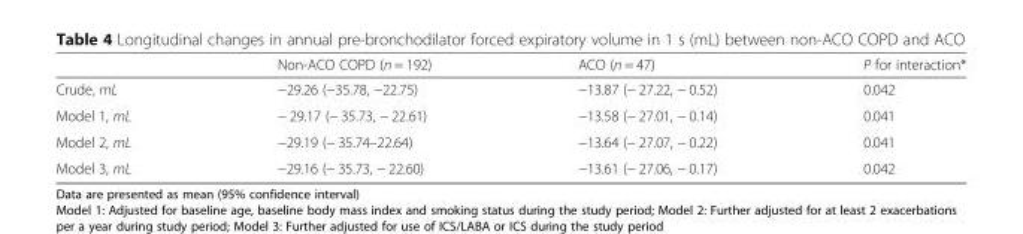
<table><thead><tr><td></td><td>Non-ACO COPD (n = 192)</td><td>ACO (n = 47)</td><td>P for interaction*</td></tr></thead><tbody><tr><td>Crude, mL</td><td>−29.26 (−35.78, −22.75)</td><td>−13.87 (− 27.22, − 0.52)</td><td>0.042</td></tr><tr><td>Model 1, mL</td><td>− 29.17 (− 35.73, − 22.61)</td><td>−13.58 (− 27.01, − 0.14)</td><td>0.041</td></tr><tr><td>Model 2, mL</td><td>−29.19 (− 35.74–22.64)</td><td>−13.64 (− 27.07, − 0.22)</td><td>0.041</td></tr><tr><td>Model 3, mL</td><td>−29.16 (− 35.73, − 22.60)</td><td>−13.61 (− 27.06, − 0.17)</td><td>0.042</td></tr></tbody></table>